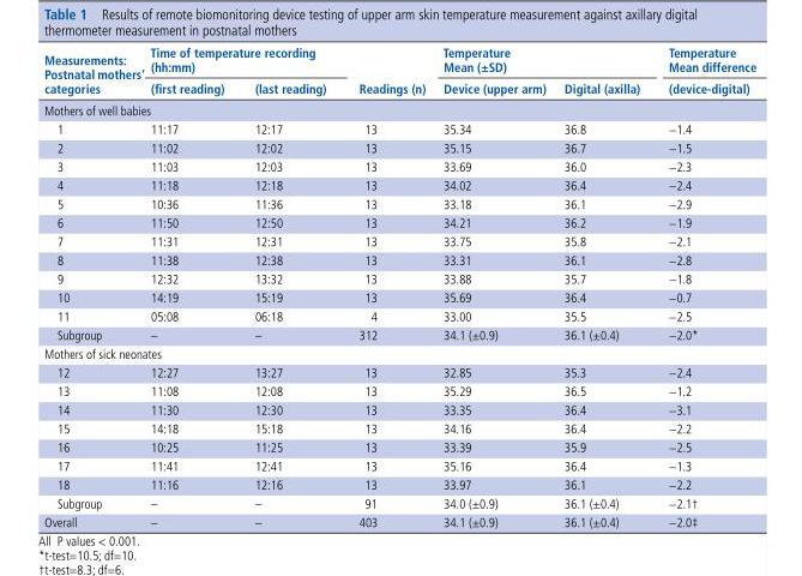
<table><thead><tr><td rowspan="2">Measurements: Postnatal mothers’ categories</td><td colspan="2">time of temperature recording (hh:mm)</td><td rowspan="2">readings (n)</td><td colspan="2">temperature Mean (±SD)</td><td rowspan="2">temperature Mean difference (device-digital)</td></tr><tr><td>(first reading)</td><td>(last reading)</td><td>Device (upper arm)</td><td>Digital (axilla)</td></tr></thead><tbody><tr><td colspan="7">Mothers of well babies</td></tr><tr><td>1</td><td>11:17</td><td>12:17</td><td>13</td><td>35.34</td><td>36.8</td><td>−1.4</td></tr><tr><td>2</td><td>11:02</td><td>12:02</td><td>13</td><td>35.15</td><td>36.7</td><td>−1.5</td></tr><tr><td>3</td><td>11:03</td><td>12:03</td><td>13</td><td>33.69</td><td>36.0</td><td>−2.3</td></tr><tr><td>4</td><td>11:18</td><td>12:18</td><td>13</td><td>34.02</td><td>36.4</td><td>−2.4</td></tr><tr><td>5</td><td>10:36</td><td>11:36</td><td>13</td><td>33.18</td><td>36.1</td><td>−2.9</td></tr><tr><td>6</td><td>11:50</td><td>12:50</td><td>13</td><td>34.21</td><td>36.2</td><td>−1.9</td></tr><tr><td>7</td><td>11:31</td><td>12:31</td><td>13</td><td>33.75</td><td>35.8</td><td>−2.1</td></tr><tr><td>8</td><td>11:38</td><td>12:38</td><td>13</td><td>33.31</td><td>36.1</td><td>−2.8</td></tr><tr><td>9</td><td>12:32</td><td>13:32</td><td>13</td><td>33.88</td><td>35.7</td><td>−1.8</td></tr><tr><td>10</td><td>14:19</td><td>15:19</td><td>13</td><td>35.69</td><td>36.4</td><td>−0.7</td></tr><tr><td>11</td><td>05:08</td><td>06:18</td><td>4</td><td>33.00</td><td>35.5</td><td>−2.5</td></tr><tr><td>Subgroup</td><td>–</td><td>–</td><td>312</td><td>34.1 (±0.9)</td><td>36.1 (±0.4)</td><td>−2.0*</td></tr><tr><td colspan="7">Mothers of sick neonates</td></tr><tr><td>12</td><td>12:27</td><td>13:27</td><td>13</td><td>32.85</td><td>35.3</td><td>−2.4</td></tr><tr><td>13</td><td>11:08</td><td>12:08</td><td>13</td><td>35.29</td><td>36.5</td><td>−1.2</td></tr><tr><td>14</td><td>11:30</td><td>12:30</td><td>13</td><td>33.35</td><td>36.4</td><td>−3.1</td></tr><tr><td>15</td><td>14:18</td><td>15:18</td><td>13</td><td>34.16</td><td>36.4</td><td>−2.2</td></tr><tr><td>16</td><td>10:25</td><td>11:25</td><td>13</td><td>33.39</td><td>35.9</td><td>−2.5</td></tr><tr><td>17</td><td>11:41</td><td>12:41</td><td>13</td><td>35.16</td><td>36.4</td><td>−1.3</td></tr><tr><td>18</td><td>11:16</td><td>12:16</td><td>13</td><td>33.97</td><td>36.1</td><td>−2.2</td></tr><tr><td>Subgroup</td><td>–</td><td>–</td><td>91</td><td>34.0 (±0.9)</td><td>36.1 (±0.4)</td><td>−2.1†</td></tr><tr><td>Overall</td><td>–</td><td>–</td><td>403</td><td>34.1 (±0.9)</td><td>36.1 (±0.4)</td><td>−2.0‡</td></tr></tbody></table>